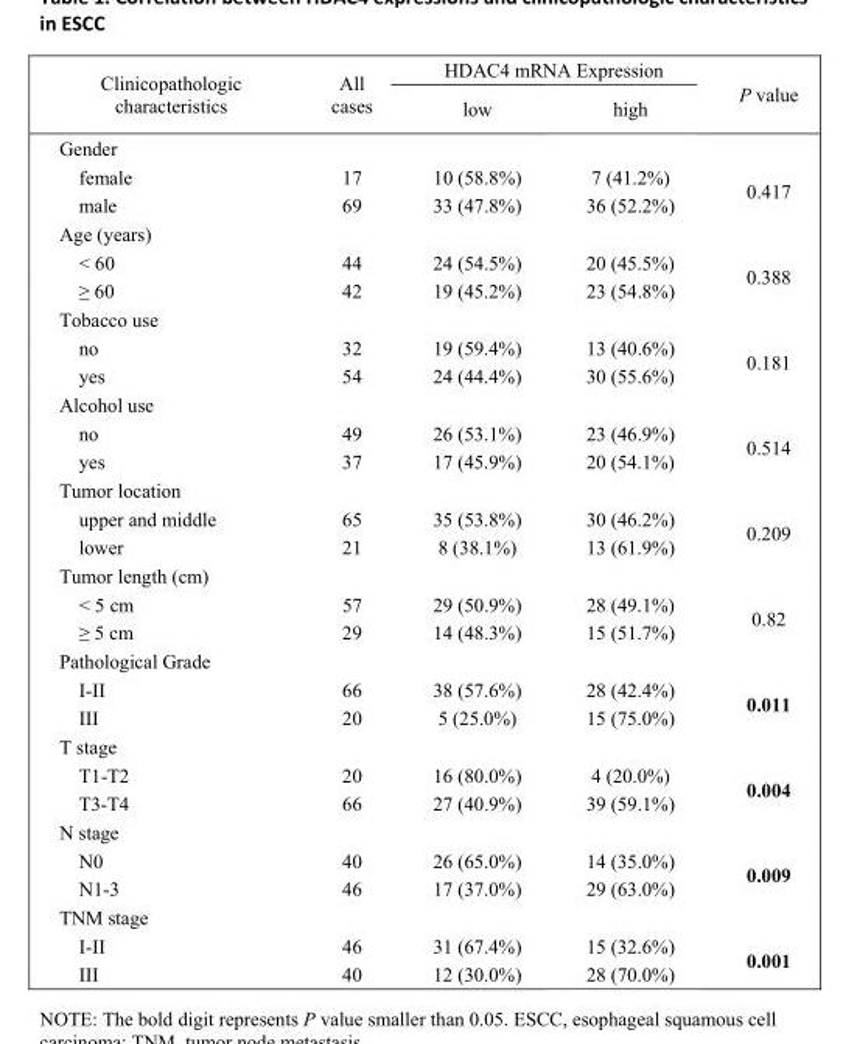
<table><thead><tr><td rowspan="2">Clinicopathologic characteristics</td><td rowspan="2">All cases</td><td colspan="2">HDAC4 mRNA Expression</td><td rowspan="2">P value</td></tr><tr><td>low</td><td>high</td></tr></thead><tbody><tr><td colspan="5">Gender</td></tr><tr><td>female</td><td>17</td><td>10 (58.8%)</td><td>7 (41.2%)</td><td rowspan="2">0.417</td></tr><tr><td>male</td><td>69</td><td>33 (47.8%)</td><td>36 (52.2%)</td></tr><tr><td colspan="5">Age (years)</td></tr><tr><td>&lt; 60</td><td>44</td><td>24 (54.5%)</td><td>20 (45.5%)</td><td rowspan="2">0.388</td></tr><tr><td>≥ 60</td><td>42</td><td>19 (45.2%)</td><td>23 (54.8%)</td></tr><tr><td colspan="5">Tobacco use</td></tr><tr><td>no</td><td>32</td><td>19 (59.4%)</td><td>13 (40.6%)</td><td rowspan="2">0.181</td></tr><tr><td>yes</td><td>54</td><td>24 (44.4%)</td><td>30 (55.6%)</td></tr><tr><td colspan="5">Alcohol use</td></tr><tr><td>no</td><td>49</td><td>26 (53.1%)</td><td>23 (46.9%)</td><td rowspan="2">0.514</td></tr><tr><td>yes</td><td>37</td><td>17 (45.9%)</td><td>20 (54.1%)</td></tr><tr><td colspan="5">Tumor location</td></tr><tr><td>upper and middle</td><td>65</td><td>35 (53.8%)</td><td>30 (46.2%)</td><td rowspan="2">0.209</td></tr><tr><td>lower</td><td>21</td><td>8 (38.1%)</td><td>13 (61.9%)</td></tr><tr><td colspan="5">Tumor length (cm)</td></tr><tr><td>&lt; 5 cm</td><td>57</td><td>29 (50.9%)</td><td>28 (49.1%)</td><td rowspan="2">0.82</td></tr><tr><td>≥ 5 cm</td><td>29</td><td>14 (48.3%)</td><td>15 (51.7%)</td></tr><tr><td colspan="5">Pathological Grade</td></tr><tr><td>I-II</td><td>66</td><td>38 (57.6%)</td><td>28 (42.4%)</td><td rowspan="2">0.011</td></tr><tr><td>III</td><td>20</td><td>5 (25.0%)</td><td>15 (75.0%)</td></tr><tr><td colspan="5">T stage</td></tr><tr><td>T1-T2</td><td>20</td><td>16 (80.0%)</td><td>4 (20.0%)</td><td rowspan="2">0.004</td></tr><tr><td>T3-T4</td><td>66</td><td>27 (40.9%)</td><td>39 (59.1%)</td></tr><tr><td colspan="5">N stage</td></tr><tr><td>N0</td><td>40</td><td>26 (65.0%)</td><td>14 (35.0%)</td><td rowspan="2">0.009</td></tr><tr><td>N1-3</td><td>46</td><td>17 (37.0%)</td><td>29 (63.0%)</td></tr><tr><td colspan="5">TNM stage</td></tr><tr><td>I-II</td><td>46</td><td>31 (67.4%)</td><td>15 (32.6%)</td><td rowspan="2">0.001</td></tr><tr><td>III</td><td>40</td><td>12 (30.0%)</td><td>28 (70.0%)</td></tr></tbody></table>